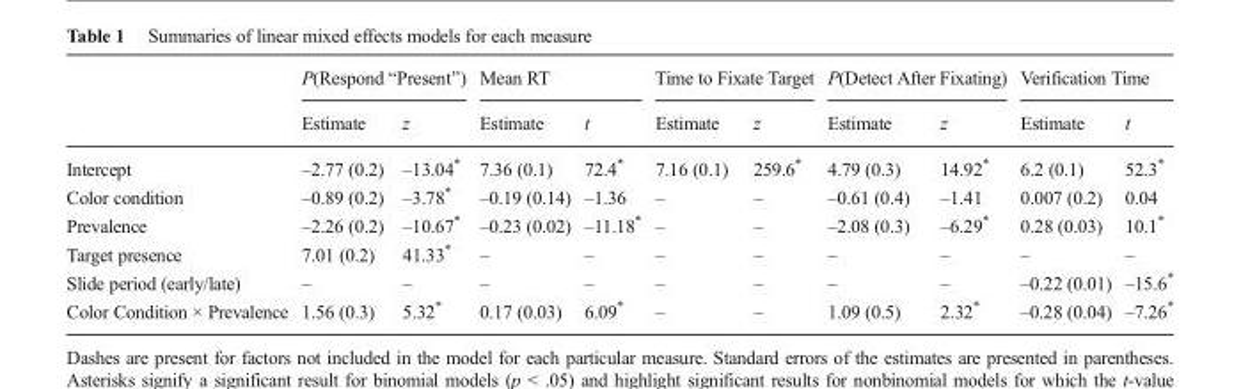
<table><thead><tr><td rowspan="2"></td><td colspan="2">P(Respond “Present”)</td><td colspan="2">Mean RT</td><td colspan="2">Time to Fixate Target</td><td colspan="2">P(Detect After Fixating)</td><td colspan="2">Verification Time</td></tr><tr><td>Estimate</td><td>z</td><td>Estimate</td><td>t</td><td>Estimate</td><td>z</td><td>Estimate</td><td>z</td><td>Estimate</td><td>t</td></tr></thead><tbody><tr><td>Intercept</td><td>–2.77 (0.2)</td><td>–13.04*</td><td>7.36 (0.1)</td><td>72.4*</td><td>7.16 (0.1)</td><td>259.6*</td><td>4.79 (0.3)</td><td>14.92*</td><td>6.2 (0.1)</td><td>52.3*</td></tr><tr><td>Color condition</td><td>–0.89 (0.2)</td><td>–3.78*</td><td>–0.19 (0.14)</td><td>–1.36</td><td>–</td><td>–</td><td>–0.61 (0.4)</td><td>–1.41</td><td>0.007 (0.2)</td><td>0.04</td></tr><tr><td>Prevalence</td><td>–2.26 (0.2)</td><td>–10.67*</td><td>–0.23 (0.02)</td><td>–11.18*</td><td>–</td><td>–</td><td>–2.08 (0.3)</td><td>–6.29*</td><td>0.28 (0.03)</td><td>10.1*</td></tr><tr><td>Target presence</td><td>7.01 (0.2)</td><td>41.33*</td><td>–</td><td>–</td><td>–</td><td>–</td><td>–</td><td>–</td><td>–</td><td>–</td></tr><tr><td>Slide period (early/late)</td><td>–</td><td>–</td><td>–</td><td>–</td><td>–</td><td>–</td><td>–</td><td>–</td><td>–0.22 (0.01)</td><td>–15.6*</td></tr><tr><td>Color Condition × Prevalence</td><td>1.56 (0.3)</td><td>5.32*</td><td>0.17 (0.03)</td><td>6.09*</td><td>–</td><td>–</td><td>1.09 (0.5)</td><td>2.32*</td><td>–0.28 (0.04)</td><td>–7.26*</td></tr></tbody></table>